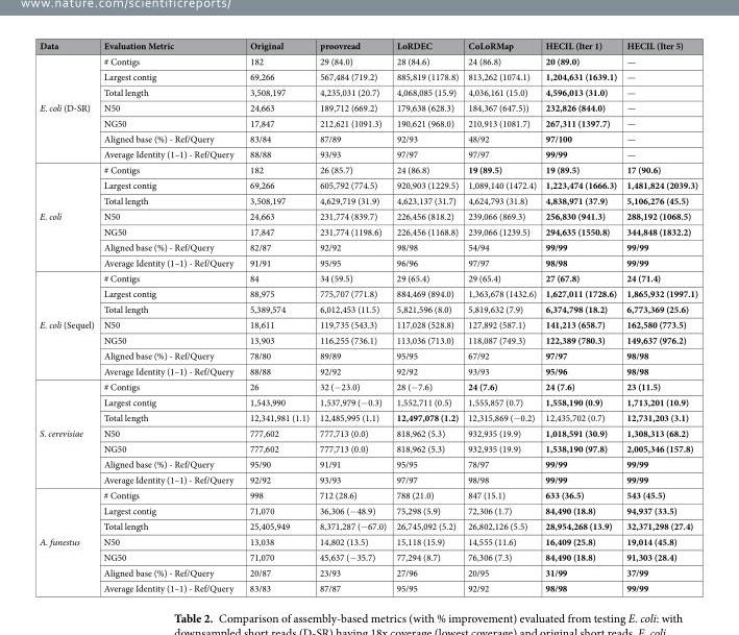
<table><thead><tr><td>Data</td><td>Evaluation Metric</td><td>Original</td><td>proovread</td><td>LoRDEC</td><td>CoLoRMap</td><td>HECIL (Iter 1)</td><td>HECIL (Iter 5)</td></tr></thead><tbody><tr><td rowspan="7">E. coli (D-SR)</td><td># Contigs</td><td>182</td><td>29 (84.0)</td><td>28 (84.6)</td><td>24 (86.8)</td><td>20 (89.0)</td><td>—</td></tr><tr><td>Largest contig</td><td>69,266</td><td>567,484 (719.2)</td><td>885,819 (1178.8)</td><td>813,262 (1074.1)</td><td>1,204,631 (1639.1)</td><td>—</td></tr><tr><td>Total length</td><td>3,508,197</td><td>4,235,031 (20.7)</td><td>4,068,085 (15.9)</td><td>4,036,161 (15.0)</td><td>4,596,013 (31.0)</td><td>—</td></tr><tr><td>N50</td><td>24,663</td><td>189,712 (669.2)</td><td>179,638 (628.3)</td><td>184,367 (647.5))</td><td>232,826 (844.0)</td><td>—</td></tr><tr><td>NG50</td><td>17,847</td><td>212,621 (1091.3)</td><td>190,621 (968.0)</td><td>210,913 (1081.7)</td><td>267,311 (1397.7)</td><td>—</td></tr><tr><td>Aligned base (%) - Ref/Query</td><td>83/84</td><td>87/89</td><td>92/93</td><td>48/92</td><td>97/100</td><td>—</td></tr><tr><td>Average Identity (1–1) - Ref/Query</td><td>88/88</td><td>93/93</td><td>97/97</td><td>97/97</td><td>99/99</td><td>—</td></tr><tr><td rowspan="7">E. coli</td><td># Contigs</td><td>182</td><td>26 (85.7)</td><td>24 (86.8)</td><td>19 (89.5)</td><td>19 (89.5)</td><td>17 (90.6)</td></tr><tr><td>Largest contig</td><td>69,266</td><td>605,792 (774.5)</td><td>920,903 (1229.5)</td><td>1,089,140 (1472.4)</td><td>1,223,474 (1666.3)</td><td>1,481,824 (2039.3)</td></tr><tr><td>Total length</td><td>3,508,197</td><td>4,629,719 (31.9)</td><td>4,623,137 (31.7)</td><td>4,624,793 (31.8)</td><td>4,838,971 (37.9)</td><td>5,106,276 (45.5)</td></tr><tr><td>N50</td><td>24,663</td><td>231,774 (839.7)</td><td>226,456 (818.2)</td><td>239,066 (869.3)</td><td>256,830 (941.3)</td><td>288,192 (1068.5)</td></tr><tr><td>NG50</td><td>17,847</td><td>231,774 (1198.6)</td><td>226,456 (1168.8)</td><td>239,066 (1239.5)</td><td>294,635 (1550.8)</td><td>344,848 (1832.2)</td></tr><tr><td>Aligned base (%) - Ref/Query</td><td>82/87</td><td>92/92</td><td>98/98</td><td>54/94</td><td>99/99</td><td>99/99</td></tr><tr><td>Average Identity (1–1) - Ref/Query</td><td>91/91</td><td>95/95</td><td>96/96</td><td>97/97</td><td>98/98</td><td>99/99</td></tr><tr><td rowspan="7">E. coli (Sequel)</td><td># Contigs</td><td>84</td><td>34 (59.5)</td><td>29 (65.4)</td><td>29 (65.4)</td><td>27 (67.8)</td><td>24 (71.4)</td></tr><tr><td>Largest contig</td><td>88,975</td><td>775,707 (771.8)</td><td>884,469 (894.0)</td><td>1,363,678 (1432.6)</td><td>1,627,011 (1728.6)</td><td>1,865,932 (1997.1)</td></tr><tr><td>Total length</td><td>5,389,574</td><td>6,012,453 (11.5)</td><td>5,821,596 (8.0)</td><td>5,819,632 (7.9)</td><td>6,374,798 (18.2)</td><td>6,773,369 (25.6)</td></tr><tr><td>N50</td><td>18,611</td><td>119,735 (543.3)</td><td>117,028 (528.8)</td><td>127,892 (587.1)</td><td>141,213 (658.7)</td><td>162,580 (773.5)</td></tr><tr><td>NG50</td><td>13,903</td><td>116,255 (736.1)</td><td>113,036 (713.0)</td><td>118,087 (749.3)</td><td>122,389 (780.3)</td><td>149,637 (976.2)</td></tr><tr><td>Aligned base (%) - Ref/Query</td><td>78/80</td><td>89/89</td><td>95/95</td><td>67/92</td><td>97/97</td><td>98/98</td></tr><tr><td>Average Identity (1–1) - Ref/Query</td><td>88/88</td><td>92/92</td><td>92/92</td><td>93/93</td><td>95/96</td><td>98/98</td></tr><tr><td rowspan="7">S. cerevisiae</td><td># Contigs</td><td>26</td><td>32 (−23.0)</td><td>28 (−7.6)</td><td>24 (7.6)</td><td>24 (7.6)</td><td>23 (11.5)</td></tr><tr><td>Largest contig</td><td>1,543,990</td><td>1,537,979 (−0.3)</td><td>1,552,711 (0.5)</td><td>1,555,857 (0.7)</td><td>1,558,190 (0.9)</td><td>1,713,201 (10.9)</td></tr><tr><td>Total length</td><td>12,341,981 (1.1)</td><td>12,485,995 (1.1)</td><td>12,497,078 (1.2)</td><td>12,315,869 (−0.2)</td><td>12,435,702 (0.7)</td><td>12,731,203 (3.1)</td></tr><tr><td>N50</td><td>777,602</td><td>777,713 (0.0)</td><td>818,962 (5.3)</td><td>932,935 (19.9)</td><td>1,018,591 (30.9)</td><td>1,308,313 (68.2)</td></tr><tr><td>NG50</td><td>777,602</td><td>777,713 (0.0)</td><td>818,962 (5.3)</td><td>932,935 (19.9)</td><td>1,538,190 (97.8)</td><td>2,005,346 (157.8)</td></tr><tr><td>Aligned base (%) - Ref/Query</td><td>95/90</td><td>91/91</td><td>95/95</td><td>78/97</td><td>99/99</td><td>99/99</td></tr><tr><td>Average Identity (1–1) - Ref/Query</td><td>92/92</td><td>93/93</td><td>97/97</td><td>98/98</td><td>99/99</td><td>99/99</td></tr><tr><td rowspan="7">A. funestus</td><td># Contigs</td><td>998</td><td>712 (28.6)</td><td>788 (21.0)</td><td>847 (15.1)</td><td>633 (36.5)</td><td>543 (45.5)</td></tr><tr><td>Largest contig</td><td>71,070</td><td>36,306 (−48.9)</td><td>75,298 (5.9)</td><td>72,306 (1.7)</td><td>84,490 (18.8)</td><td>94,937 (33.5)</td></tr><tr><td>Total length</td><td>25,405,949</td><td>8,371,287 (−67.0)</td><td>26,745,092 (5.2)</td><td>26,802,126 (5.5)</td><td>28,954,268 (13.9)</td><td>32,371,298 (27.4)</td></tr><tr><td>N50</td><td>13,038</td><td>14,802 (13.5)</td><td>15,118 (15.9)</td><td>14,555 (11.6)</td><td>16,409 (25.8)</td><td>19,014 (45.8)</td></tr><tr><td>NG50</td><td>71,070</td><td>45,637 (−35.7)</td><td>77,294 (8.7)</td><td>76,306 (7.3)</td><td>84,490 (18.8)</td><td>91,303 (28.4)</td></tr><tr><td>Aligned base (%) - Ref/Query</td><td>20/87</td><td>23/93</td><td>27/96</td><td>20/95</td><td>31/99</td><td>37/99</td></tr><tr><td>Average Identity (1–1) - Ref/Query</td><td>83/83</td><td>87/87</td><td>95/95</td><td>92/92</td><td>98/98</td><td>99/99</td></tr></tbody></table>